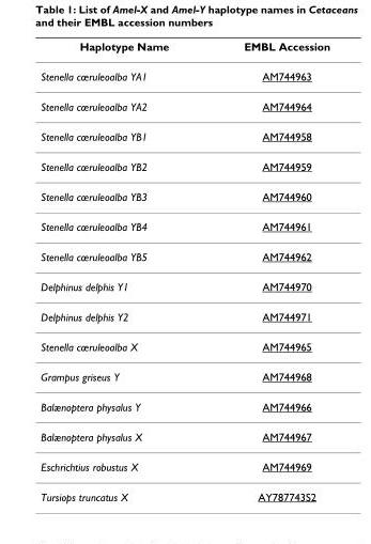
<table><thead><tr><td>Haplotype Name</td><td>EMBL Accession</td></tr></thead><tbody><tr><td>Stenella cœruleoalba YA1</td><td>AM744963</td></tr><tr><td>Stenella cœruleoalba YA2</td><td>AM744964</td></tr><tr><td>Stenella cœruleoalba YB1</td><td>AM744958</td></tr><tr><td>Stenella cœruleoalba YB2</td><td>AM744959</td></tr><tr><td>Stenella cœruleoalba YB3</td><td>AM744960</td></tr><tr><td>Stenella cœruleoalba YB4</td><td>AM744961</td></tr><tr><td>Stenella cœruleoalba YB5</td><td>AM744962</td></tr><tr><td>Delphinus delphis Y1</td><td>AM744970</td></tr><tr><td>Delphinus delphis Y2</td><td>AM744971</td></tr><tr><td>Stenella cœruleoalba X</td><td>AM744965</td></tr><tr><td>Grampus griseus Y</td><td>AM744968</td></tr><tr><td>Balænoptera physalus Y</td><td>AM744966</td></tr><tr><td>Balænoptera physalus X</td><td>AM744967</td></tr><tr><td>Eschrichtius robustus X</td><td>AM744969</td></tr><tr><td>Tursiops truncatus X</td><td>AY787743S2</td></tr></tbody></table>